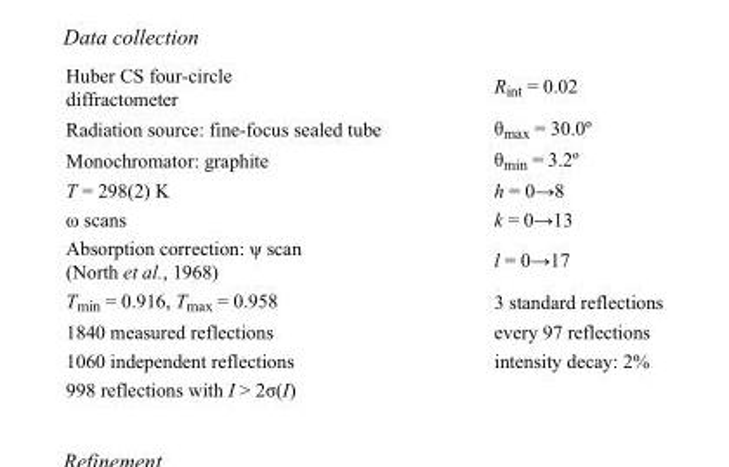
<table><tbody><tr><td>Huber CS four-circle diffractometer</td><td>R<sub>int</sub> = 0.02</td></tr><tr><td>Radiation source: fine-focus sealed tube</td><td>θ<sub>max</sub> = 30.0º</td></tr><tr><td>Monochromator: graphite</td><td>θ<sub>min</sub> = 3.2º</td></tr><tr><td>T = 298(2) K</td><td>h = 0→8</td></tr><tr><td>ω scans</td><td>k = 0→13</td></tr><tr><td>Absorption correction: ψ scan (North et al., 1968)</td><td>l = 0→17</td></tr><tr><td>T<sub>min</sub> = 0.916, T<sub>max</sub> = 0.958</td><td>3 standard reflections</td></tr><tr><td>1840 measured reflections</td><td>every 97 reflections</td></tr><tr><td>1060 independent reflections</td><td>intensity decay: 2%</td></tr><tr><td>998 reflections with I &gt; 2σ(I)</td><td></td></tr></tbody></table>